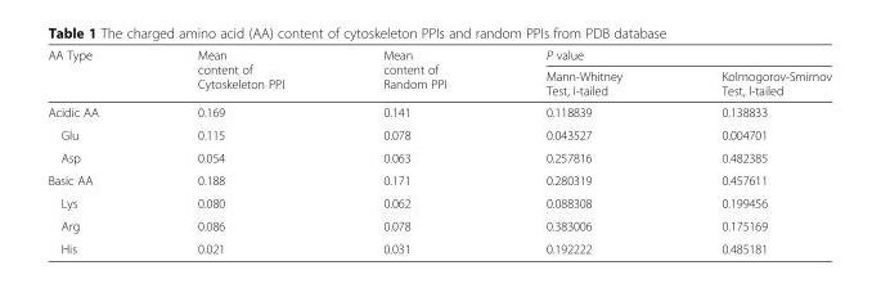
<table><thead><tr><td rowspan="2">AA Type</td><td rowspan="2">Mean content of Cytoskeleton PPI</td><td rowspan="2">Mean content of Random PPI</td><td colspan="2">P value</td></tr><tr><td>Mann-Whitney Test, I-tailed</td><td>Kolmogorov-Smirnov Test, l-tailed</td></tr></thead><tbody><tr><td>Acidic AA</td><td>0.169</td><td>0.141</td><td>0.118839</td><td>0.138833</td></tr><tr><td>Glu</td><td>0.115</td><td>0.078</td><td>0.043527</td><td>0.004701</td></tr><tr><td>Asp</td><td>0.054</td><td>0.063</td><td>0.257816</td><td>0.482385</td></tr><tr><td>Basic AA</td><td>0.188</td><td>0.171</td><td>0.280319</td><td>0.457611</td></tr><tr><td>Lys</td><td>0.080</td><td>0.062</td><td>0.088308</td><td>0.199456</td></tr><tr><td>Arg</td><td>0.086</td><td>0.078</td><td>0.383006</td><td>0.175169</td></tr><tr><td>His</td><td>0.021</td><td>0.031</td><td>0.192222</td><td>0.485181</td></tr></tbody></table>